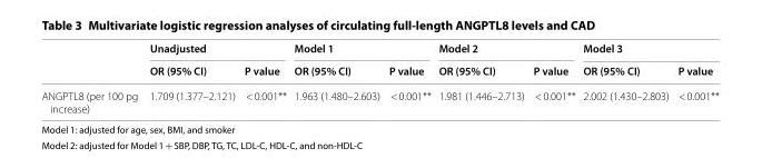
<table><thead><tr><td rowspan="2"></td><td colspan="2">Unadjusted</td><td colspan="2">Model 1</td><td colspan="2">Model 2</td><td colspan="2">Model 3</td></tr><tr><td>OR (95% CI)</td><td>P value</td><td>OR (95% CI)</td><td>P value</td><td>OR (95% CI)</td><td>P value</td><td>OR (95% CI)</td><td>P value</td></tr></thead><tbody><tr><td>ANGPTL8 (per 100 pg increase)</td><td>1.709 (1.377–2.121)</td><td>&lt; 0.001**</td><td>1.963 (1.480–2.603)</td><td>&lt; 0.001**</td><td>1.981 (1.446–2.713)</td><td>&lt; 0.001**</td><td>2.002 (1.430–2.803)</td><td>&lt; 0.001**</td></tr></tbody></table>